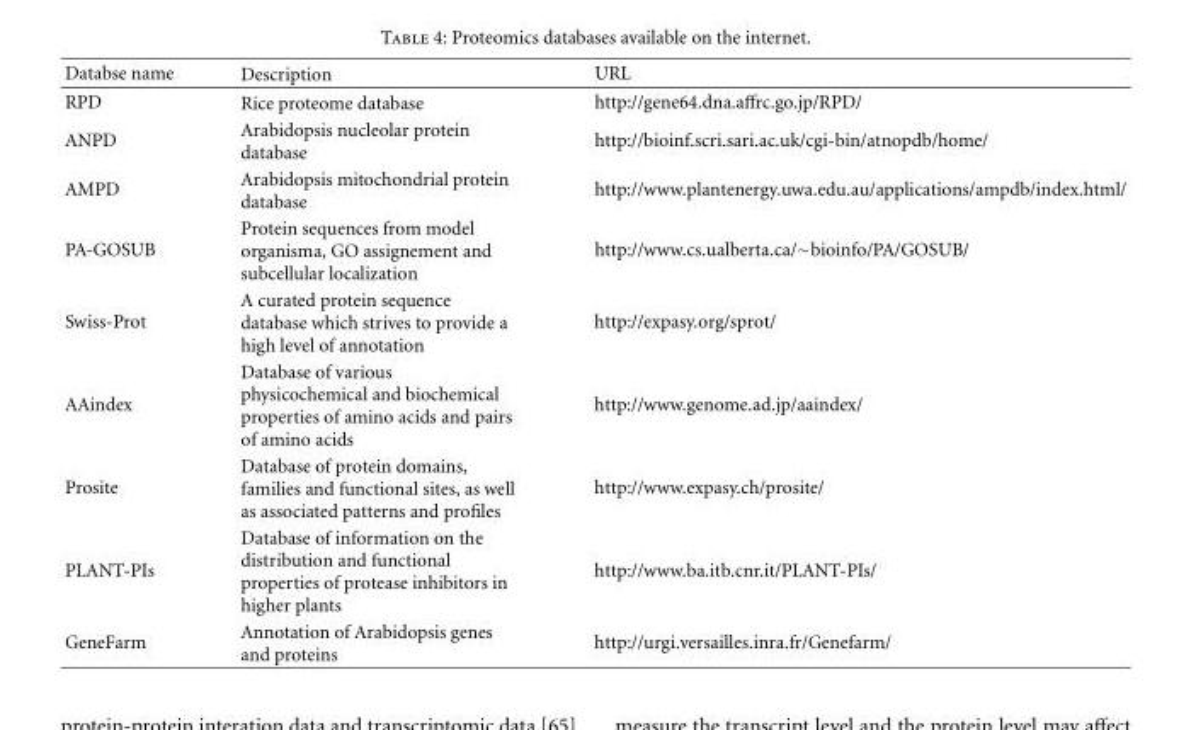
<table><thead><tr><td>Databse name</td><td>Description</td><td>URL</td></tr></thead><tbody><tr><td>RPD</td><td>Rice proteome database</td><td>http://gene64.dna.affrc.go.jp/RPD/</td></tr><tr><td>ANPD</td><td>Arabidopsis nucleolar protein database</td><td>http://bioinf.scri.sari.ac.uk/cgi-bin/atnopdb/home/</td></tr><tr><td>AMPD</td><td>Arabidopsis mitochondrial protein database</td><td>http://www.plantenergy.uwa.edu.au/applications/ampdb/index.html/</td></tr><tr><td>PA-GOSUB</td><td>Protein sequences from model organisma, GO assignement and subcellular localization</td><td>http://www.cs.ualberta.ca/∼bioinfo/PA/GOSUB/</td></tr><tr><td>Swiss-Prot</td><td>A curated protein sequence database which strives to provide a high level of annotation</td><td>http://expasy.org/sprot/</td></tr><tr><td>AAindex</td><td>Database of various physicochemical and biochemical properties of amino acids and pairs of amino acids</td><td>http://www.genome.ad.jp/aaindex/</td></tr><tr><td>Prosite</td><td>Database of protein domains, families and functional sites, as well as associated patterns and profiles</td><td>http://www.expasy.ch/prosite/</td></tr><tr><td>PLANT-PIs</td><td>Database of information on the distribution and functional properties of protease inhibitors in higher plants</td><td>http://www.ba.itb.cnr.it/PLANT-PIs/</td></tr><tr><td>GeneFarm</td><td>Annotation of Arabidopsis genes and proteins</td><td>http://urgi.versailles.inra.fr/Genefarm/</td></tr></tbody></table>